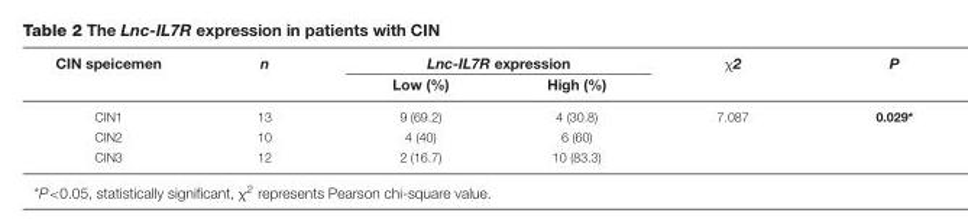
<table><thead><tr><td rowspan="2">CIN speicemen</td><td rowspan="2">n</td><td colspan="2">Lnc-IL7R expression</td><td rowspan="2">χ2</td><td rowspan="2">P</td></tr><tr><td>Low (%)</td><td>High (%)</td></tr></thead><tbody><tr><td>CIN1</td><td>13</td><td>9 (69.2)</td><td>4 (30.8)</td><td>7.087</td><td>0.029*</td></tr><tr><td>CIN2</td><td>10</td><td>4 (40)</td><td>6 (60)</td><td></td><td></td></tr><tr><td>CIN3</td><td>12</td><td>2 (16.7)</td><td>10 (83.3)</td><td></td><td></td></tr></tbody></table>